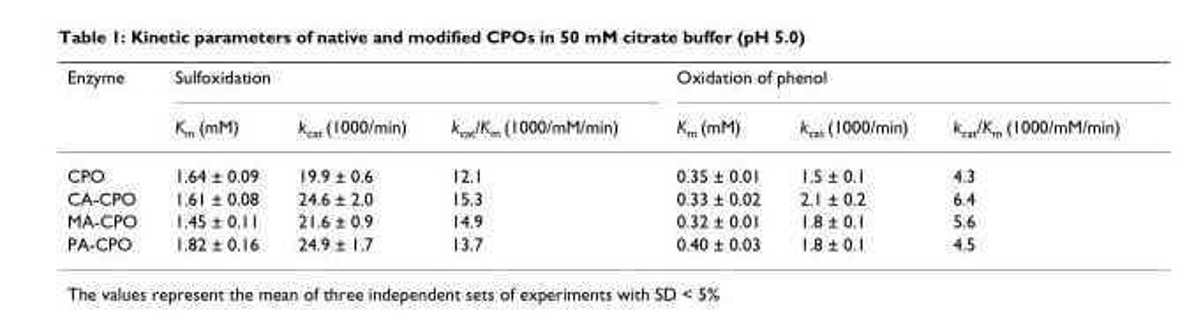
<table><thead><tr><td rowspan="2">Enzyme</td><td colspan="3">Sulfoxidation</td><td colspan="3">Oxidation of phenol</td></tr><tr><td>Km (mM)</td><td>kcat (1000/min)</td><td>kcat/Km (1000/mM/min)</td><td>Km (mM)</td><td>kcat (1000/min)</td><td>kcat/Km (1000/mM/min)</td></tr></thead><tbody><tr><td>CPO</td><td>1.64 ± 0.09</td><td>19.9 ± 0.6</td><td>12.1</td><td>0.35 ± 0.01</td><td>1.5 ± 0.1</td><td>4.3</td></tr><tr><td>CA-CPO</td><td>1.61 ± 0.08</td><td>24.6 ± 2.0</td><td>15.3</td><td>0.33 ± 0.02</td><td>2.1 ± 0.2</td><td>6.4</td></tr><tr><td>MA-CPO</td><td>1.45 ± 0.11</td><td>21.6 ± 0.9</td><td>14.9</td><td>0.32 ± 0.01</td><td>1.8 ± 0.1</td><td>5.6</td></tr><tr><td>PA-CPO</td><td>1.82 ± 0.16</td><td>24.9 ± 1.7</td><td>13.7</td><td>0.40 ± 0.03</td><td>1.8 ± 0.1</td><td>4.5</td></tr></tbody></table>